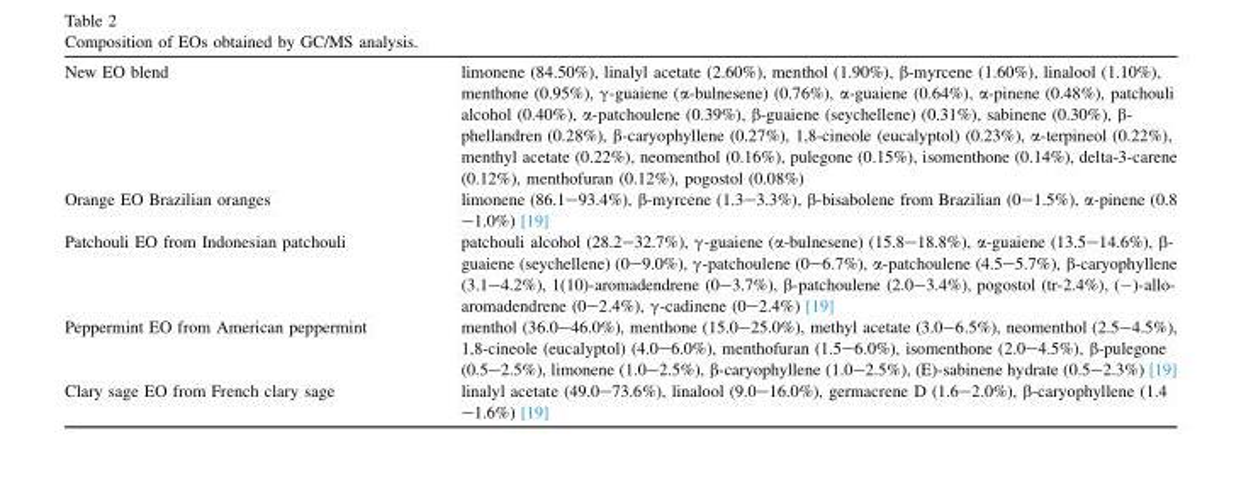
<table><tbody><tr><td>New EO blend</td><td>limonene (84.50%), linalyl acetate (2.60%), menthol (1.90%), β-myrcene (1.60%), linalool (1.10%), menthone (0.95%), γ-guaiene (α-bulnesene) (0.76%), α-guaiene (0.64%), α-pinene (0.48%), patchouli alcohol (0.40%), α-patchoulene (0.39%), β-guaiene (seychellene) (0.31%), sabinene (0.30%), β- phellandren (0.28%), β-caryophyllene (0.27%), 1,8-cineole (eucalyptol) (0.23%), α-terpineol (0.22%), menthyl acetate (0.22%), neomenthol (0.16%), pulegone (0.15%), isomenthone (0.14%), delta-3-carene (0.12%), menthofuran (0.12%), pogostol (0.08%)</td></tr><tr><td>Orange EO Brazilian oranges</td><td>limonene (86.1–93.4%), β-myrcene (1.3–3.3%), β-bisabolene from Brazilian (0–1.5%), α-pinene (0.8 –1.0%) [19]</td></tr><tr><td>Patchouli EO from Indonesian patchouli</td><td>patchouli alcohol (28.2–32.7%), γ-guaiene (α-bulnesene) (15.8–18.8%), α-guaiene (13.5–14.6%), β- guaiene (seychellene) (0–9.0%), γ-patchoulene (0–6.7%), α-patchoulene (4.5–5.7%), β-caryophyllene (3.1–4.2%), 1(10)-aromadendrene (0–3.7%), β-patchoulene (2.0–3.4%), pogostol (tr-2.4%), (−)-allo- aromadendrene (0–2.4%), γ-cadinene (0–2.4%) [19]</td></tr><tr><td>Peppermint EO from American peppermint</td><td>menthol (36.0–46.0%), menthone (15.0–25.0%), methyl acetate (3.0–6.5%), neomenthol (2.5–4.5%), 1,8-cineole (eucalyptol) (4.0–6.0%), menthofuran (1.5–6.0%), isomenthone (2.0–4.5%), β-pulegone (0.5–2.5%), limonene (1.0–2.5%), β-caryophyllene (1.0–2.5%), (E)-sabinene hydrate (0.5–2.3%) [19]</td></tr><tr><td>Clary sage EO from French clary sage</td><td>linalyl acetate (49.0–73.6%), linalool (9.0–16.0%), germacrene D (1.6–2.0%), β-caryophyllene (1.4 –1.6%) [19]</td></tr></tbody></table>